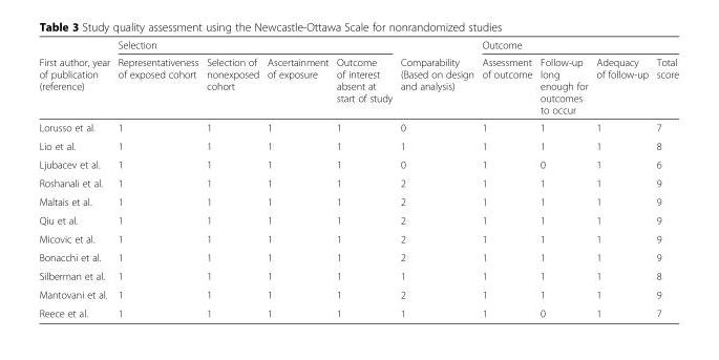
<table><thead><tr><td rowspan="2">First author, year of publication (reference)</td><td colspan="4">Selection</td><td rowspan="2">Comparability (Based on design and analysis)</td><td colspan="4">Outcome</td></tr><tr><td>Representativeness of exposed cohort</td><td>Selection of nonexposed cohort</td><td>Ascertainment of exposure</td><td>Outcome of interest absent at start of study</td><td>Assessment of outcome</td><td>Follow-up long enough for outcomes to occur</td><td>Adequacy of follow-up</td><td>Total score</td></tr></thead><tbody><tr><td>Lorusso et al.</td><td>1</td><td>1</td><td>1</td><td>1</td><td>0</td><td>1</td><td>1</td><td>1</td><td>7</td></tr><tr><td>Lio et al.</td><td>1</td><td>1</td><td>1</td><td>1</td><td>1</td><td>1</td><td>1</td><td>1</td><td>8</td></tr><tr><td>Ljubacev et al.</td><td>1</td><td>1</td><td>1</td><td>1</td><td>0</td><td>1</td><td>0</td><td>1</td><td>6</td></tr><tr><td>Roshanali et al.</td><td>1</td><td>1</td><td>1</td><td>1</td><td>2</td><td>1</td><td>1</td><td>1</td><td>9</td></tr><tr><td>Maltais et al.</td><td>1</td><td>1</td><td>1</td><td>1</td><td>2</td><td>1</td><td>1</td><td>1</td><td>9</td></tr><tr><td>Qiu et al.</td><td>1</td><td>1</td><td>1</td><td>1</td><td>2</td><td>1</td><td>1</td><td>1</td><td>9</td></tr><tr><td>Micovic et al.</td><td>1</td><td>1</td><td>1</td><td>1</td><td>2</td><td>1</td><td>1</td><td>1</td><td>9</td></tr><tr><td>Bonacchi et al.</td><td>1</td><td>1</td><td>1</td><td>1</td><td>2</td><td>1</td><td>1</td><td>1</td><td>9</td></tr><tr><td>Silberman et al.</td><td>1</td><td>1</td><td>1</td><td>1</td><td>1</td><td>1</td><td>1</td><td>1</td><td>8</td></tr><tr><td>Mantovani et al.</td><td>1</td><td>1</td><td>1</td><td>1</td><td>2</td><td>1</td><td>1</td><td>1</td><td>9</td></tr><tr><td>Reece et al.</td><td>1</td><td>1</td><td>1</td><td>1</td><td>1</td><td>1</td><td>0</td><td>1</td><td>7</td></tr></tbody></table>